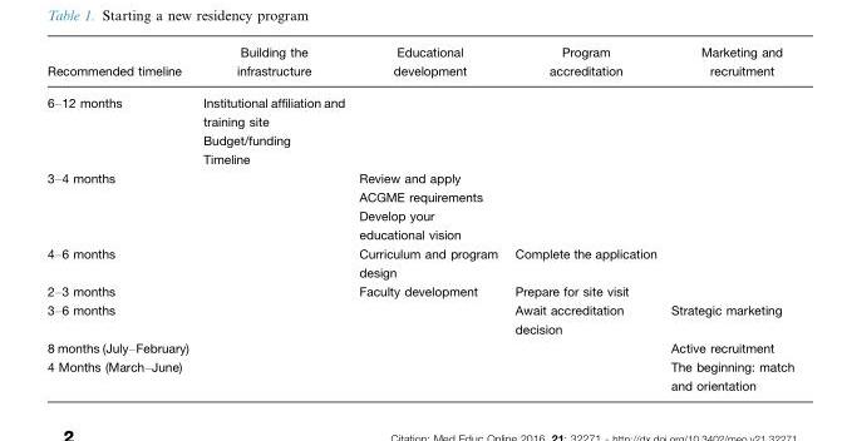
<table><thead><tr><td>Recommended timeline</td><td>Building the infrastructure</td><td>Educational development</td><td>Program accreditation</td><td>Marketing and recruitment</td></tr></thead><tbody><tr><td rowspan="2">6–12 months</td><td>Institutional affiliation and training site</td><td></td><td></td><td></td></tr><tr><td>Budget/funding Timeline</td><td></td><td></td><td></td></tr><tr><td rowspan="2">3–4 months</td><td></td><td>Review and apply ACGME requirements</td><td></td><td></td></tr><tr><td></td><td>Develop your educational vision</td><td></td><td></td></tr><tr><td>4–6 months</td><td></td><td>Curriculum and program design</td><td>Complete the application</td><td></td></tr><tr><td>2–3 months</td><td></td><td>Faculty development</td><td>Prepare for site visit</td><td></td></tr><tr><td>3–6 months</td><td></td><td></td><td>Await accreditation decision</td><td>Strategic marketing</td></tr><tr><td>8 months (July–February)</td><td></td><td></td><td></td><td>Active recruitment</td></tr><tr><td>4 Months (March–June)</td><td></td><td></td><td></td><td>The beginning: match and orientation</td></tr></tbody></table>